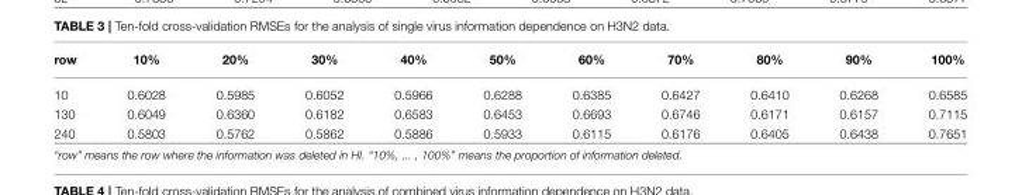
<table><thead><tr><td>row</td><td>10%</td><td>20%</td><td>30%</td><td>40%</td><td>50%</td><td>60%</td><td>70%</td><td>80%</td><td>90%</td><td>100%</td></tr></thead><tbody><tr><td>10</td><td>0.6028</td><td>0.5985</td><td>0.6052</td><td>0.5966</td><td>0.6288</td><td>0.6385</td><td>0.6427</td><td>0.6410</td><td>0.6268</td><td>0.6585</td></tr><tr><td>130</td><td>0.6049</td><td>0.6360</td><td>0.6182</td><td>0.6583</td><td>0.6453</td><td>0.6693</td><td>0.6746</td><td>0.6171</td><td>0.6157</td><td>0.7115</td></tr><tr><td>240</td><td>0.5803</td><td>0.5762</td><td>0.5862</td><td>0.5886</td><td>0.5933</td><td>0.6115</td><td>0.6176</td><td>0.6405</td><td>0.6438</td><td>0.7651</td></tr></tbody></table>